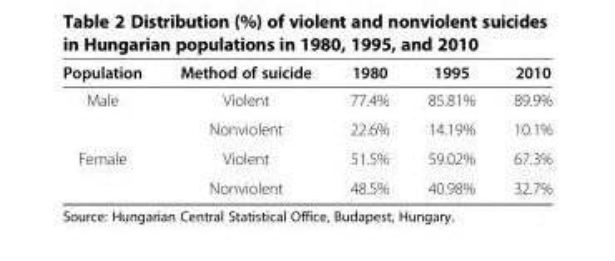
<table><thead><tr><td>Population</td><td>Method of suicide</td><td>1980</td><td>1995</td><td>2010</td></tr></thead><tbody><tr><td rowspan="2">Male</td><td>Violent</td><td>77.4%</td><td>85.81%</td><td>89.9%</td></tr><tr><td>Nonviolent</td><td>22.6%</td><td>14.19%</td><td>10.1%</td></tr><tr><td rowspan="2">Female</td><td>Violent</td><td>51.5%</td><td>59.02%</td><td>67.3%</td></tr><tr><td>Nonviolent</td><td>48.5%</td><td>40.98%</td><td>32.7%</td></tr></tbody></table>